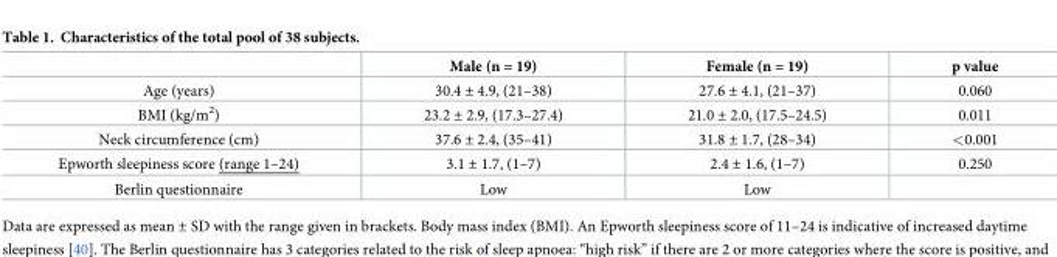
<table><thead><tr><td></td><td>Male (n = 19)</td><td>Female (n = 19)</td><td>p value</td></tr></thead><tbody><tr><td>Age (years)</td><td>30.4 ± 4.9, (21–38)</td><td>27.6 ± 4.1, (21–37)</td><td>0.060</td></tr><tr><td>BMI (kg/m<sup>2</sup>)</td><td>23.2 ± 2.9, (17.3–27.4)</td><td>21.0 ± 2.0, (17.5–24.5)</td><td>0.011</td></tr><tr><td>Neck circumference (cm)</td><td>37.6 ± 2.4, (35–41)</td><td>31.8 ± 1.7, (28–34)</td><td>&lt;0.001</td></tr><tr><td>Epworth sleepiness score (range 1–24)</td><td>3.1 ± 1.7, (1–7)</td><td>2.4 ± 1.6, (1–7)</td><td>0.250</td></tr><tr><td>Berlin questionnaire</td><td>Low</td><td>Low</td><td></td></tr></tbody></table>